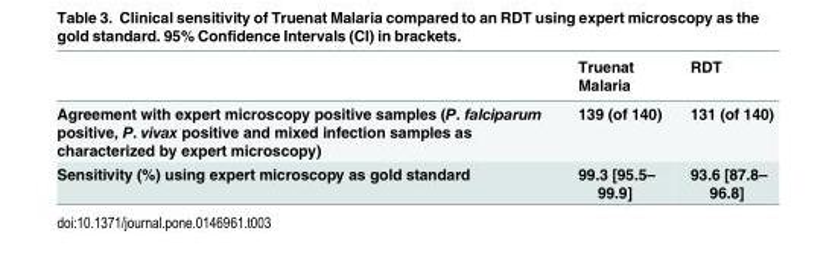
<table><thead><tr><td></td><td>Truenat Malaria</td><td>RDT</td></tr></thead><tbody><tr><td>Agreement with expert microscopy positive samples (P. falciparum positive, P. vivax positive and mixed infection samples as characterized by expert microscopy)</td><td>139 (of 140)</td><td>131 (of 140)</td></tr><tr><td>Sensitivity (%) using expert microscopy as gold standard</td><td>99.3 [95.5– 99.9]</td><td>93.6 [87.8– 96.8]</td></tr></tbody></table>